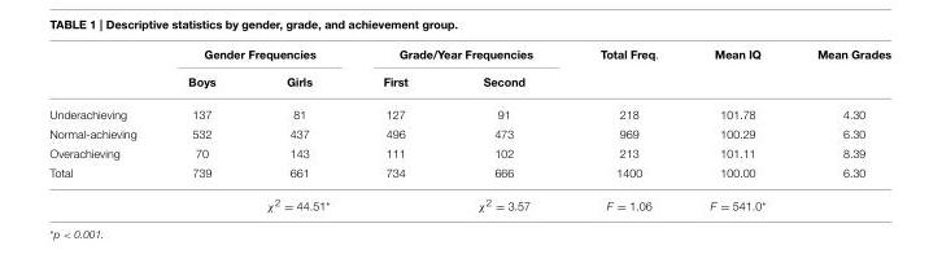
<table><thead><tr><td rowspan="2"></td><td colspan="2">Gender Frequencies</td><td colspan="2">Grade/Year Frequencies</td><td rowspan="2">Total Freq.</td><td rowspan="2">Mean IQ</td><td rowspan="2">Mean Grades</td></tr><tr><td>Boys</td><td>Girls</td><td>First</td><td>Second</td></tr></thead><tbody><tr><td>Underachieving</td><td>137</td><td>81</td><td>127</td><td>91</td><td>218</td><td>101.78</td><td>4.30</td></tr><tr><td>Normal-achieving</td><td>532</td><td>437</td><td>496</td><td>473</td><td>969</td><td>100.29</td><td>6.30</td></tr><tr><td>Overachieving</td><td>70</td><td>143</td><td>111</td><td>102</td><td>213</td><td>101.11</td><td>8.39</td></tr><tr><td rowspan="2">Total</td><td>739</td><td>661</td><td>734</td><td>666</td><td>1400</td><td>100.00</td><td>6.30</td></tr><tr><td colspan="3">χ2 = 44.51*</td><td>χ2 = 3.57</td><td>F = 1.06</td><td>F = 541.0*</td><td></td></tr></tbody></table>